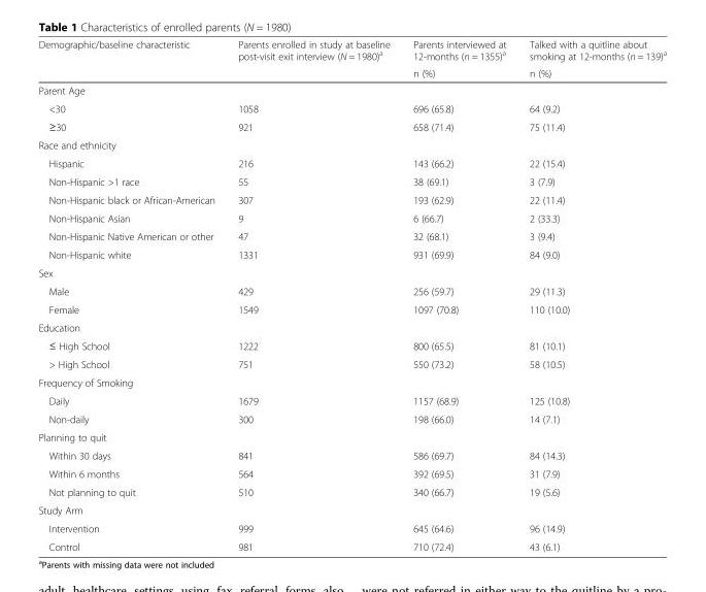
<table><thead><tr><td rowspan="2">Demographic/baseline characteristic</td><td rowspan="2">Parents enrolled in study at baseline post-visit exit interview (N = 1980)<sup>a</sup></td><td rowspan="2">Parents interviewed at 12-months (n = 1355)<sup>a</sup> n (%)</td><td rowspan="2">Talked with a quitline about smoking at 12-months (n = 139)<sup>a</sup> n (%)</td></tr><tr></tr></thead><tbody><tr><td colspan="4">Parent Age</td></tr><tr><td>&lt;30</td><td>1058</td><td>696 (65.8)</td><td>64 (9.2)</td></tr><tr><td>≥30</td><td>921</td><td>658 (71.4)</td><td>75 (11.4)</td></tr><tr><td colspan="4">Race and ethnicity</td></tr><tr><td>Hispanic</td><td>216</td><td>143 (66.2)</td><td>22 (15.4)</td></tr><tr><td>Non-Hispanic &gt;1 race</td><td>55</td><td>38 (69.1)</td><td>3 (7.9)</td></tr><tr><td>Non-Hispanic black or African-American</td><td>307</td><td>193 (62.9)</td><td>22 (11.4)</td></tr><tr><td>Non-Hispanic Asian</td><td>9</td><td>6 (66.7)</td><td>2 (33.3)</td></tr><tr><td>Non-Hispanic Native American or other</td><td>47</td><td>32 (68.1)</td><td>3 (9.4)</td></tr><tr><td>Non-Hispanic white</td><td>1331</td><td>931 (69.9)</td><td>84 (9.0)</td></tr><tr><td colspan="4">Sex</td></tr><tr><td>Male</td><td>429</td><td>256 (59.7)</td><td>29 (11.3)</td></tr><tr><td>Female</td><td>1549</td><td>1097 (70.8)</td><td>110 (10.0)</td></tr><tr><td colspan="4">Education</td></tr><tr><td>≤ High School</td><td>1222</td><td>800 (65.5)</td><td>81 (10.1)</td></tr><tr><td>&gt; High School</td><td>751</td><td>550 (73.2)</td><td>58 (10.5)</td></tr><tr><td colspan="4">Frequency of Smoking</td></tr><tr><td>Daily</td><td>1679</td><td>1157 (68.9)</td><td>125 (10.8)</td></tr><tr><td>Non-daily</td><td>300</td><td>198 (66.0)</td><td>14 (7.1)</td></tr><tr><td colspan="4">Planning to quit</td></tr><tr><td>Within 30 days</td><td>841</td><td>586 (69.7)</td><td>84 (14.3)</td></tr><tr><td>Within 6 months</td><td>564</td><td>392 (69.5)</td><td>31 (7.9)</td></tr><tr><td>Not planning to quit</td><td>510</td><td>340 (66.7)</td><td>19 (5.6)</td></tr><tr><td colspan="4">Study Arm</td></tr><tr><td>Intervention</td><td>999</td><td>645 (64.6)</td><td>96 (14.9)</td></tr><tr><td>Control</td><td>981</td><td>710 (72.4)</td><td>43 (6.1)</td></tr></tbody></table>